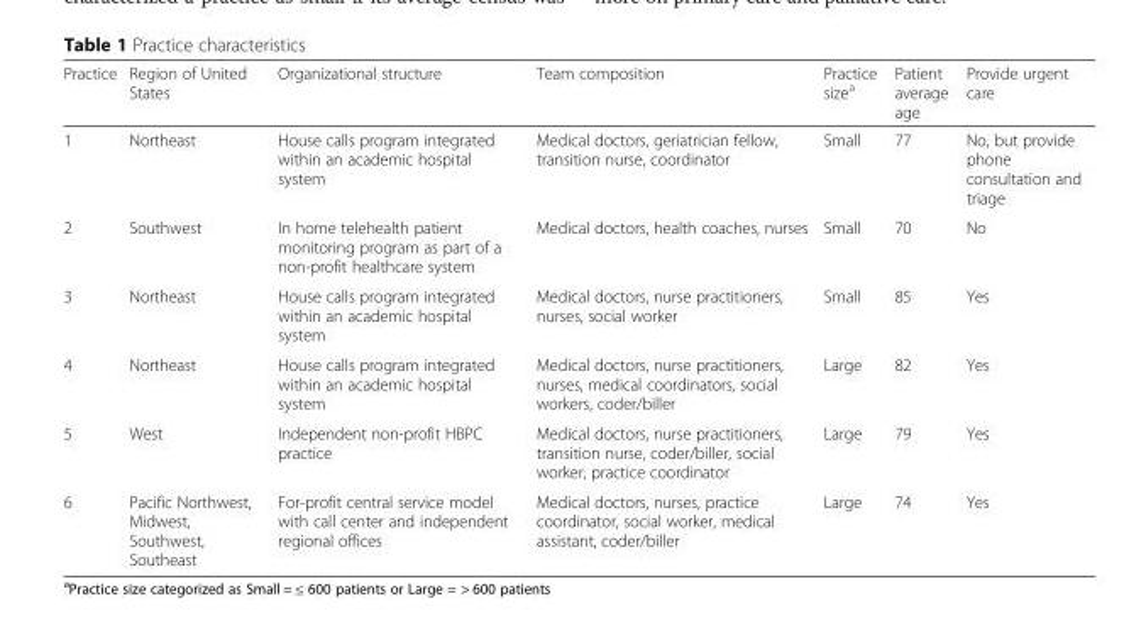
<table><thead><tr><td>Practice</td><td>Region of United States</td><td>Organizational structure</td><td>Team composition</td><td>Practice size<sup>a</sup></td><td>Patient average age</td><td>Provide urgent care</td></tr></thead><tbody><tr><td>1</td><td>Northeast</td><td>House calls program integrated within an academic hospital system</td><td>Medical doctors, geriatrician fellow, transition nurse, coordinator</td><td>Small</td><td>77</td><td>No, but provide phone consultation and triage</td></tr><tr><td>2</td><td>Southwest</td><td>In home telehealth patient monitoring program as part of a non-profit healthcare system</td><td>Medical doctors, health coaches, nurses</td><td>Small</td><td>70</td><td>No</td></tr><tr><td>3</td><td>Northeast</td><td>House calls program integrated within an academic hospital system</td><td>Medical doctors, nurse practitioners, nurses, social worker</td><td>Small</td><td>85</td><td>Yes</td></tr><tr><td>4</td><td>Northeast</td><td>House calls program integrated within an academic hospital system</td><td>Medical doctors, nurse practitioners, nurses, medical coordinators, social workers, coder/biller</td><td>Large</td><td>82</td><td>Yes</td></tr><tr><td>5</td><td>West</td><td>Independent non-profit HBPC practice</td><td>Medical doctors, nurse practitioners, transition nurse, coder/biller, social worker, practice coordinator</td><td>Large</td><td>79</td><td>Yes</td></tr><tr><td>6</td><td>Pacific Northwest, Midwest, Southwest, Southeast</td><td>For-profit central service model with call center and independent regional offices</td><td>Medical doctors, nurses, practice coordinator, social worker, medical assistant, coder/biller</td><td>Large</td><td>74</td><td>Yes</td></tr></tbody></table>